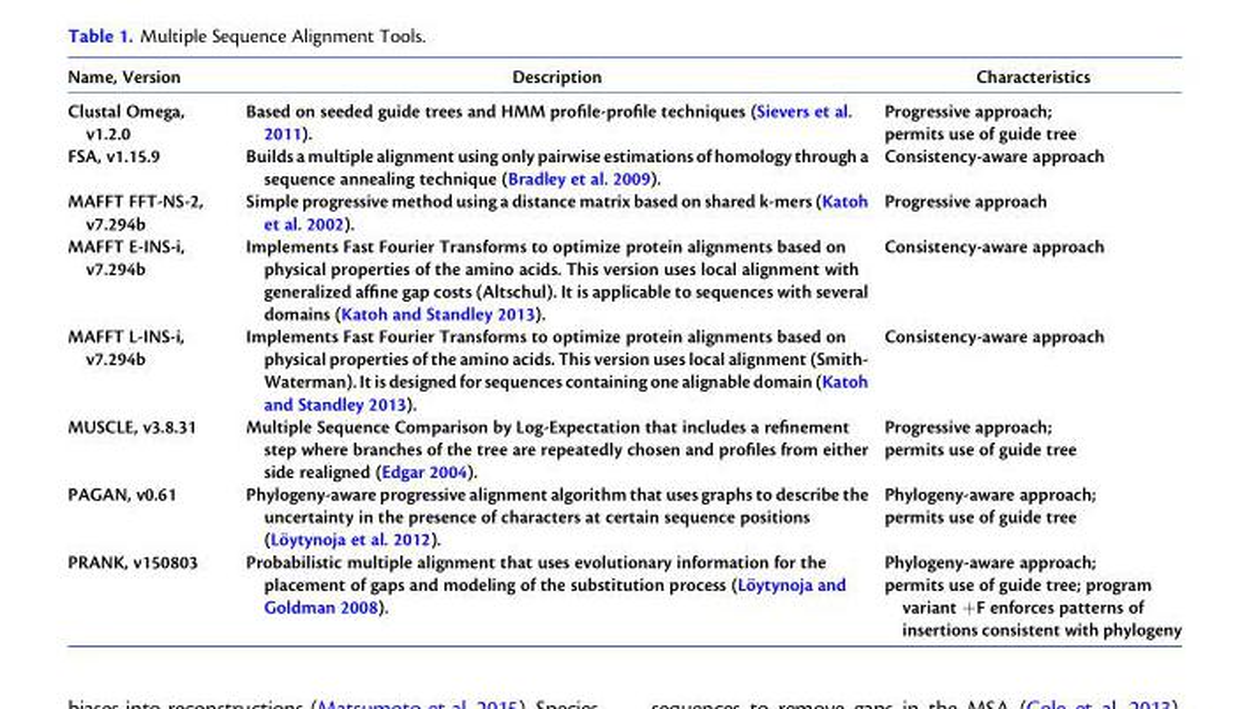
<table><thead><tr><td>Name, Version</td><td>Description</td><td>Characteristics</td></tr></thead><tbody><tr><td rowspan="2">Clustal Omega, v1.2.0</td><td rowspan="2">Based on seeded guide trees and HMM profile-profile techniques (Sievers et al. 2011).</td><td>Progressive approach;</td></tr><tr><td>permits use of guide tree</td></tr><tr><td>FSA, v1.15.9</td><td>Builds a multiple alignment using only pairwise estimations of homology through a sequence annealing technique (Bradley et al. 2009).</td><td>Consistency-aware approach</td></tr><tr><td>MAFFT FFT-NS-2, v7.294b</td><td>Simple progressive method using a distance matrix based on shared k-mers (Katoh et al. 2002).</td><td>Progressive approach</td></tr><tr><td>MAFFT E-INS-i, v7.294b</td><td>Implements Fast Fourier Transforms to optimize protein alignments based on physical properties of the amino acids. This version uses local alignment with generalized affine gap costs (Altschul). It is applicable to sequences with several domains (Katoh and Standley 2013).</td><td>Consistency-aware approach</td></tr><tr><td>MAFFT L-INS-i, v7.294b</td><td>Implements Fast Fourier Transforms to optimize protein alignments based on physical properties of the amino acids. This version uses local alignment (Smith- Waterman). Itisdesigned forsequences containing one alignable domain (Katoh and Standley 2013).</td><td>Consistency-aware approach</td></tr><tr><td rowspan="2">MUSCLE, v3.8.31</td><td rowspan="2">Multiple Sequence Comparison by Log-Expectation that includes a refinement step where branches of the tree are repeatedly chosen and profiles from either side realigned (Edgar 2004).</td><td>Progressive approach;</td></tr><tr><td>permits use of guide tree</td></tr><tr><td rowspan="2">PAGAN, v0.61</td><td rowspan="2">Phylogeny-aware progressive alignment algorithm that uses graphs to describe the uncertainty in the presence of characters at certain sequence positions (Lo¨ytynoja et al. 2012).</td><td>Phylogeny-aware approach;</td></tr><tr><td>permits use of guide tree</td></tr><tr><td rowspan="2">PRANK, v150803</td><td rowspan="2">Probabilistic multiple alignment that uses evolutionary information for the placement of gaps and modeling of the substitution process (Lo¨ytynoja and Goldman 2008).</td><td>Phylogeny-aware approach;</td></tr><tr><td>permits use of guide tree; program variant +F enforces patterns of insertions consistent with phylogeny</td></tr></tbody></table>